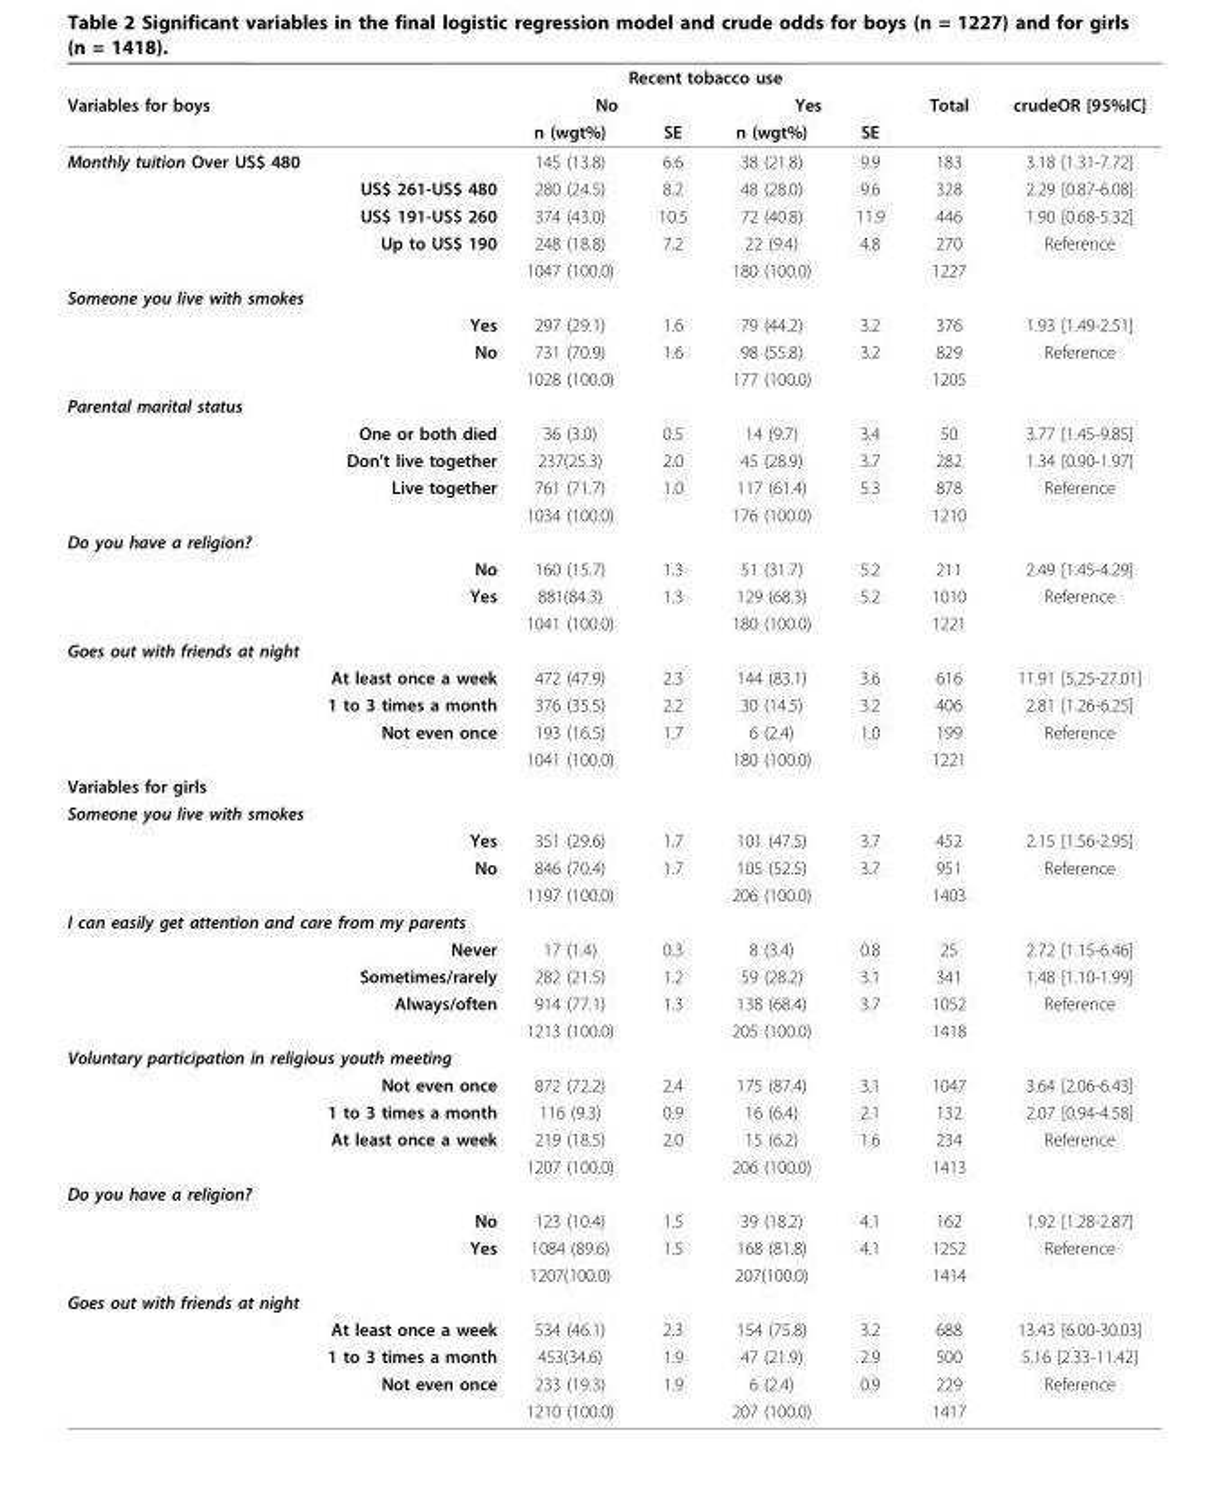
<table><thead><tr><td rowspan="3">Variables for boys</td><td colspan="4">Recent tobacco use</td><td rowspan="3">Total</td><td rowspan="3">crudeOR [95%IC]</td></tr><tr><td colspan="2">No</td><td colspan="2">Yes</td></tr><tr><td>n (wgt%)</td><td>SE</td><td>n (wgt%)</td><td>SE</td></tr></thead><tbody><tr><td>Monthly tuition Over US$ 480</td><td>145 (13.8)</td><td>6.6</td><td>38 (21.8)</td><td>9.9</td><td>183</td><td>3.18 [1.31-7.72]</td></tr><tr><td>US$ 261-US$ 480</td><td>280 (24.5)</td><td>8.2</td><td>48 (28.0)</td><td>9.6</td><td>328</td><td>2.29 [0.87-6.08]</td></tr><tr><td>US$ 191-US$ 260</td><td>374 (43.0)</td><td>10.5</td><td>72 (40.8)</td><td>11.9</td><td>446</td><td>1.90 [0.68-5.32]</td></tr><tr><td rowspan="2">Up to US$ 190</td><td>248 (18.8)</td><td>7.2</td><td>22 (9.4)</td><td>4.8</td><td>270</td><td>Reference</td></tr><tr><td>1047 (100.0)</td><td></td><td>180 (100.0)</td><td></td><td>1227</td><td></td></tr><tr><td colspan="7">Someone you live with smokes</td></tr><tr><td>Yes</td><td>297 (29.1)</td><td>1.6</td><td>79 (44.2)</td><td>3.2</td><td>376</td><td>1.93 [1.49-2.51]</td></tr><tr><td rowspan="2">No</td><td>731 (70.9)</td><td>1.6</td><td>98 (55.8)</td><td>3.2</td><td>829</td><td>Reference</td></tr><tr><td>1028 (100.0)</td><td></td><td>177 (100.0)</td><td></td><td>1205</td><td></td></tr><tr><td colspan="7">Parental marital status</td></tr><tr><td>One or both died</td><td>36 (3.0)</td><td>0.5</td><td>14 (9.7)</td><td>3.4</td><td>50</td><td>3.77 [1.45-9.85]</td></tr><tr><td>Don’t live together</td><td>237(25.3)</td><td>2.0</td><td>45 (28.9)</td><td>3.7</td><td>282</td><td>1.34 [0.90-1.97]</td></tr><tr><td rowspan="2">Live together</td><td>761 (71.7)</td><td>1.0</td><td>117 (61.4)</td><td>5.3</td><td>878</td><td>Reference</td></tr><tr><td>1034 (100.0)</td><td></td><td>176 (100.0)</td><td></td><td>1210</td><td></td></tr><tr><td colspan="7">Do you have a religion?</td></tr><tr><td>No</td><td>160 (15.7)</td><td>1.3</td><td>51 (31.7)</td><td>5.2</td><td>211</td><td>2.49 [1.45-4.29]</td></tr><tr><td rowspan="2">Yes</td><td>881(84.3)</td><td>1.3</td><td>129 (68.3)</td><td>5.2</td><td>1010</td><td>Reference</td></tr><tr><td>1041 (100.0)</td><td></td><td>180 (100.0)</td><td></td><td>1221</td><td></td></tr><tr><td colspan="7">Goes out with friends at night</td></tr><tr><td>At least once a week</td><td>472 (47.9)</td><td>2.3</td><td>144 (83.1)</td><td>3.6</td><td>616</td><td>11.91 [5,25-27.01]</td></tr><tr><td>1 to 3 times a month</td><td>376 (35.5)</td><td>2.2</td><td>30 (14.5)</td><td>3.2</td><td>406</td><td>2.81 [1.26-6.25]</td></tr><tr><td rowspan="2">Not even once</td><td>193 (16.5)</td><td>1.7</td><td>6 (2.4)</td><td>1.0</td><td>199</td><td>Reference</td></tr><tr><td>1041 (100.0)</td><td></td><td>180 (100.0)</td><td></td><td>1221</td><td></td></tr><tr><td colspan="7">Variables for girls</td></tr><tr><td colspan="7">Someone you live with smokes</td></tr><tr><td>Yes</td><td>351 (29.6)</td><td>1.7</td><td>101 (47.5)</td><td>3.7</td><td>452</td><td>2.15 [1.56-2.95]</td></tr><tr><td rowspan="2">No</td><td>846 (70.4)</td><td>1.7</td><td>105 (52.5)</td><td>3.7</td><td>951</td><td>Reference</td></tr><tr><td>1197 (100.0)</td><td></td><td>206 (100.0)</td><td></td><td>1403</td><td></td></tr><tr><td colspan="7">I can easily get attention and care from my parents</td></tr><tr><td>Never</td><td>17 (1.4)</td><td>0.3</td><td>8 (3.4)</td><td>0.8</td><td>25</td><td>2.72 [1.15-6.46]</td></tr><tr><td>Sometimes/rarely</td><td>282 (21.5)</td><td>1.2</td><td>59 (28.2)</td><td>3.1</td><td>341</td><td>1.48 [1.10-1.99]</td></tr><tr><td rowspan="2">Always/often</td><td>914 (77.1)</td><td>1.3</td><td>138 (68.4)</td><td>3.7</td><td>1052</td><td>Reference</td></tr><tr><td>1213 (100.0)</td><td></td><td>205 (100.0)</td><td></td><td>1418</td><td></td></tr><tr><td colspan="7">Voluntary participation in religious youth meeting</td></tr><tr><td>Not even once</td><td>872 (72.2)</td><td>2.4</td><td>175 (87.4)</td><td>3.1</td><td>1047</td><td>3.64 [2.06-6.43]</td></tr><tr><td>1 to 3 times a month</td><td>116 (9.3)</td><td>0.9</td><td>16 (6.4)</td><td>2.1</td><td>132</td><td>2.07 [0.94-4.58]</td></tr><tr><td rowspan="2">At least once a week</td><td>219 (18.5)</td><td>2.0</td><td>15 (6.2)</td><td>1.6</td><td>234</td><td>Reference</td></tr><tr><td>1207 (100.0)</td><td></td><td>206 (100.0)</td><td></td><td>1413</td><td></td></tr><tr><td colspan="7">Do you have a religion?</td></tr><tr><td>No</td><td>123 (10.4)</td><td>1.5</td><td>39 (18.2)</td><td>4.1</td><td>162</td><td>1.92 [1.28-2.87]</td></tr><tr><td rowspan="2">Yes</td><td>1084 (89.6)</td><td>1.5</td><td>168 (81.8)</td><td>4.1</td><td>1252</td><td>Reference</td></tr><tr><td>1207(100.0)</td><td></td><td>207(100.0)</td><td></td><td>1414</td><td></td></tr><tr><td colspan="7">Goes out with friends at night</td></tr><tr><td>At least once a week</td><td>534 (46.1)</td><td>2.3</td><td>154 (75.8)</td><td>3.2</td><td>688</td><td>13.43 [6.00-30.03]</td></tr><tr><td>1 to 3 times a month</td><td>453(34.6)</td><td>1.9</td><td>47 (21.9)</td><td>2.9</td><td>500</td><td>5.16 [2.33-11.42]</td></tr><tr><td rowspan="2">Not even once</td><td>233 (19.3)</td><td>1.9</td><td>6 (2.4)</td><td>0.9</td><td>229</td><td>Reference</td></tr><tr><td>1210 (100.0)</td><td></td><td>207 (100.0)</td><td></td><td>1417</td><td></td></tr></tbody></table>